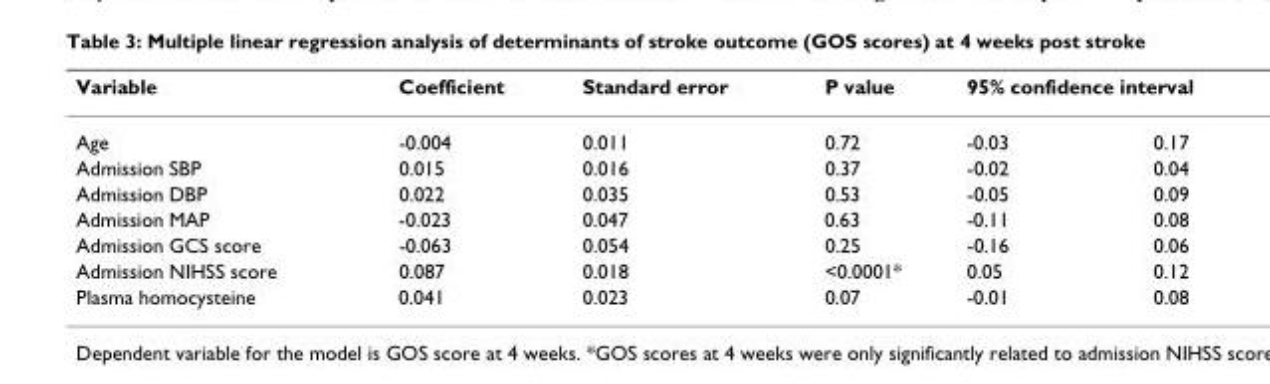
<table><thead><tr><td rowspan="2">Variable Age</td><td rowspan="2">Coefficient -0.004</td><td rowspan="2">Standard error 0.011</td><td rowspan="2">P value 0.72</td><td colspan="2">95% confidence interval</td></tr><tr><td>-0.03</td><td>0.17</td></tr></thead><tbody><tr><td>Admission SBP</td><td>0.015</td><td>0.016</td><td>0.37</td><td>-0.02</td><td>0.04</td></tr><tr><td>Admission DBP</td><td>0.022</td><td>0.035</td><td>0.53</td><td>-0.05</td><td>0.09</td></tr><tr><td>Admission MAP</td><td>-0.023</td><td>0.047</td><td>0.63</td><td>-0.11</td><td>0.08</td></tr><tr><td>Admission GCS score</td><td>-0.063</td><td>0.054</td><td>0.25</td><td>-0.16</td><td>0.06</td></tr><tr><td>Admission NIHSS score</td><td>0.087</td><td>0.018</td><td>&lt;0.0001*</td><td>0.05</td><td>0.12</td></tr><tr><td>Plasma homocysteine</td><td>0.041</td><td>0.023</td><td>0.07</td><td>-0.01</td><td>0.08</td></tr></tbody></table>